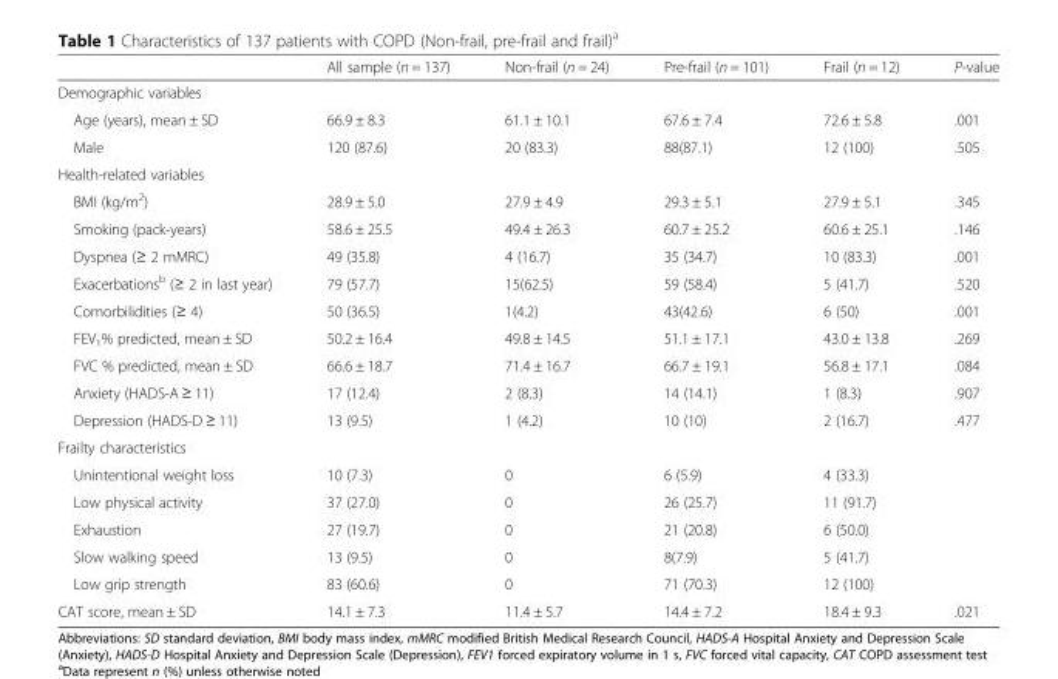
<table><thead><tr><td></td><td>All sample (n = 137)</td><td>Non-frail (n = 24)</td><td>Pre-frail (n = 101)</td><td>Frail (n = 12)</td><td>P-value</td></tr></thead><tbody><tr><td colspan="6">Demographic variables</td></tr><tr><td>Age (years), mean ± SD</td><td>66.9 ± 8.3</td><td>61.1 ± 10.1</td><td>67.6 ± 7.4</td><td>72.6 ± 5.8</td><td>.001</td></tr><tr><td>Male</td><td>120 (87.6)</td><td>20 (83.3)</td><td>88(87.1)</td><td>12 (100)</td><td>.505</td></tr><tr><td colspan="6">Health-related variables</td></tr><tr><td>BMI (kg/m<sup>2</sup>)</td><td>28.9 ± 5.0</td><td>27.9 ± 4.9</td><td>29.3 ± 5.1</td><td>27.9 ± 5.1</td><td>.345</td></tr><tr><td>Smoking (pack-years)</td><td>58.6 ± 25.5</td><td>49.4 ± 26.3</td><td>60.7 ± 25.2</td><td>60.6 ± 25.1</td><td>.146</td></tr><tr><td>Dyspnea (≥ 2 mMRC)</td><td>49 (35.8)</td><td>4 (16.7)</td><td>35 (34.7)</td><td>10 (83.3)</td><td>.001</td></tr><tr><td>Exacerbations<sup>b</sup> (≥ 2 in last year)</td><td>79 (57.7)</td><td>15(62.5)</td><td>59 (58.4)</td><td>5 (41.7)</td><td>.520</td></tr><tr><td>Comorbilidities (≥ 4)</td><td>50 (36.5)</td><td>1(4.2)</td><td>43(42.6)</td><td>6 (50)</td><td>.001</td></tr><tr><td>FEV<sub>1</sub>% predicted, mean ± SD</td><td>50.2 ± 16.4</td><td>49.8 ± 14.5</td><td>51.1 ± 17.1</td><td>43.0 ± 13.8</td><td>.269</td></tr><tr><td>FVC % predicted, mean ± SD</td><td>66.6 ± 18.7</td><td>71.4 ± 16.7</td><td>66.7 ± 19.1</td><td>56.8 ± 17.1</td><td>.084</td></tr><tr><td>Anxiety (HADS-A ≥ 11)</td><td>17 (12.4)</td><td>2 (8.3)</td><td>14 (14.1)</td><td>1 (8.3)</td><td>.907</td></tr><tr><td>Depression (HADS-D ≥ 11)</td><td>13 (9.5)</td><td>1 (4.2)</td><td>10 (10)</td><td>2 (16.7)</td><td>.477</td></tr><tr><td colspan="6">Frailty characteristics</td></tr><tr><td>Unintentional weight loss</td><td>10 (7.3)</td><td>0</td><td>6 (5.9)</td><td>4 (33.3)</td><td></td></tr><tr><td>Low physical activity</td><td>37 (27.0)</td><td>0</td><td>26 (25.7)</td><td>11 (91.7)</td><td></td></tr><tr><td>Exhaustion</td><td>27 (19.7)</td><td>0</td><td>21 (20.8)</td><td>6 (50.0)</td><td></td></tr><tr><td>Slow walking speed</td><td>13 (9.5)</td><td>0</td><td>8(7.9)</td><td>5 (41.7)</td><td></td></tr><tr><td>Low grip strength</td><td>83 (60.6)</td><td>0</td><td>71 (70.3)</td><td>12 (100)</td><td></td></tr><tr><td>CAT score, mean ± SD</td><td>14.1 ± 7.3</td><td>11.4 ± 5.7</td><td>14.4 ± 7.2</td><td>18.4 ± 9.3</td><td>.021</td></tr></tbody></table>